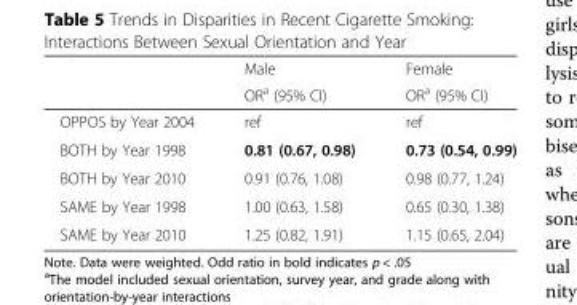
<table><thead><tr><td rowspan="2"></td><td rowspan="2">Male OR<sup>a</sup> (95% CI)</td><td rowspan="2">Female OR<sup>a</sup> (95% CI)</td></tr><tr></tr></thead><tbody><tr><td>OPPOS by Year 2004</td><td>ref</td><td>ref</td></tr><tr><td>BOTH by Year 1998</td><td>0.81 (0.67, 0.98)</td><td>0.73 (0.54, 0.99)</td></tr><tr><td>BOTH by Year 2010</td><td>0.91 (0.76, 1.08)</td><td>0.98 (0.77, 1.24)</td></tr><tr><td>SAME by Year 1998</td><td>1.00 (0.63, 1.58)</td><td>0.65 (0.30, 1.38)</td></tr><tr><td>SAME by Year 2010</td><td>1.25 (0.82, 1.91)</td><td>1.15 (0.65, 2.04)</td></tr></tbody></table>